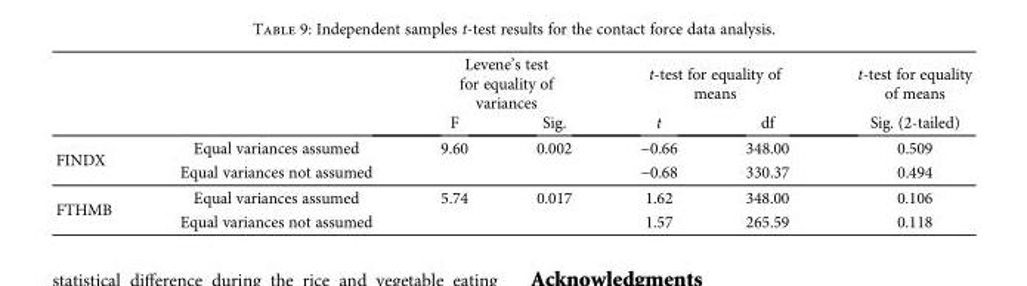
<table><thead><tr><td rowspan="2"></td><td rowspan="2"></td><td colspan="2">Levene’s test for equality of variances</td><td colspan="2">t-test for equality of means</td><td rowspan="2">t-test for equality of means Sig. (2-tailed)</td></tr><tr><td>F</td><td>Sig.</td><td>t</td><td>df</td></tr></thead><tbody><tr><td rowspan="2">FINDX</td><td>Equal variances assumed</td><td>9.60</td><td>0.002</td><td>−0.66</td><td>348.00</td><td>0.509</td></tr><tr><td>Equal variances not assumed</td><td></td><td></td><td>−0.68</td><td>330.37</td><td>0.494</td></tr><tr><td rowspan="2">FTHMB</td><td>Equal variances assumed</td><td>5.74</td><td>0.017</td><td>1.62</td><td>348.00</td><td>0.106</td></tr><tr><td>Equal variances not assumed</td><td></td><td></td><td>1.57</td><td>265.59</td><td>0.118</td></tr></tbody></table>